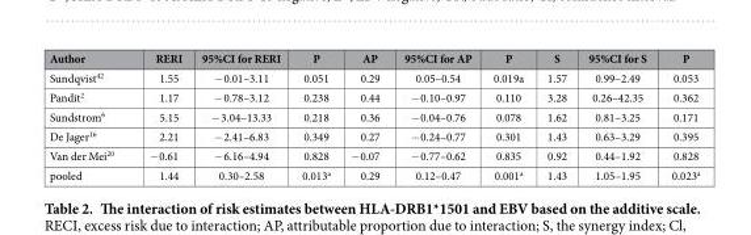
<table><thead><tr><td>Author</td><td>RERI</td><td>95%CI for RERI</td><td>P</td><td>AP</td><td>95%CI for AP</td><td>P</td><td>S</td><td>95%CI for S</td><td>P</td></tr></thead><tbody><tr><td>Sundqvist<sup>42</sup></td><td>1.55</td><td>− 0.01–3.11</td><td>0.051</td><td>0.29</td><td>0.05–0.54</td><td>0.019a</td><td>1.57</td><td>0.99–2.49</td><td>0.053</td></tr><tr><td>Pandit<sup>2</sup></td><td>1.17</td><td>− 0.78–3.12</td><td>0.238</td><td>0.44</td><td>− 0.10–0.97</td><td>0.110</td><td>3.28</td><td>0.26–42.35</td><td>0.362</td></tr><tr><td>Sundstrom<sup>6</sup></td><td>5.15</td><td>− 3.04–13.33</td><td>0.218</td><td>0.36</td><td>− 0.04–0.76</td><td>0.078</td><td>1.62</td><td>0.81–3.25</td><td>0.171</td></tr><tr><td>De Jager<sup>16</sup></td><td>2.21</td><td>− 2.41–6.83</td><td>0.349</td><td>0.27</td><td>− 0.24–0.77</td><td>0.301</td><td>1.43</td><td>0.63–3.29</td><td>0.395</td></tr><tr><td>Van der Mei<sup>20</sup></td><td>− 0.61</td><td>− 6.16–4.94</td><td>0.828</td><td>− 0.07</td><td>− 0.77–0.62</td><td>0.835</td><td>0.92</td><td>0.44–1.92</td><td>0.828</td></tr><tr><td>pooled</td><td>1.44</td><td>0.30–2.58</td><td>0.013<sup>a</sup></td><td>0.29</td><td>0.12–0.47</td><td>0.001<sup>a</sup></td><td>1.43</td><td>1.05–1.95</td><td>0.023<sup>a</sup></td></tr></tbody></table>